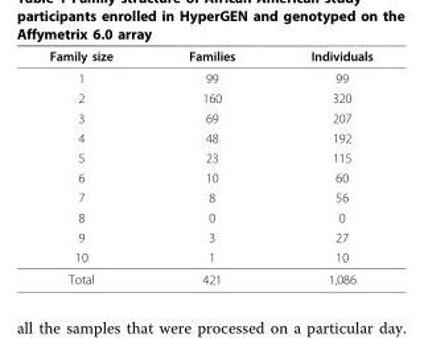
<table><thead><tr><td>Family size</td><td>Families</td><td>Individuals</td></tr></thead><tbody><tr><td>1</td><td>99</td><td>99</td></tr><tr><td>2</td><td>160</td><td>320</td></tr><tr><td>3</td><td>69</td><td>207</td></tr><tr><td>4</td><td>48</td><td>192</td></tr><tr><td>5</td><td>23</td><td>115</td></tr><tr><td>6</td><td>10</td><td>60</td></tr><tr><td>7</td><td>8</td><td>56</td></tr><tr><td>8</td><td>0</td><td>0</td></tr><tr><td>9</td><td>3</td><td>27</td></tr><tr><td>10</td><td>1</td><td>10</td></tr><tr><td>Total</td><td>421</td><td>1,086</td></tr></tbody></table>